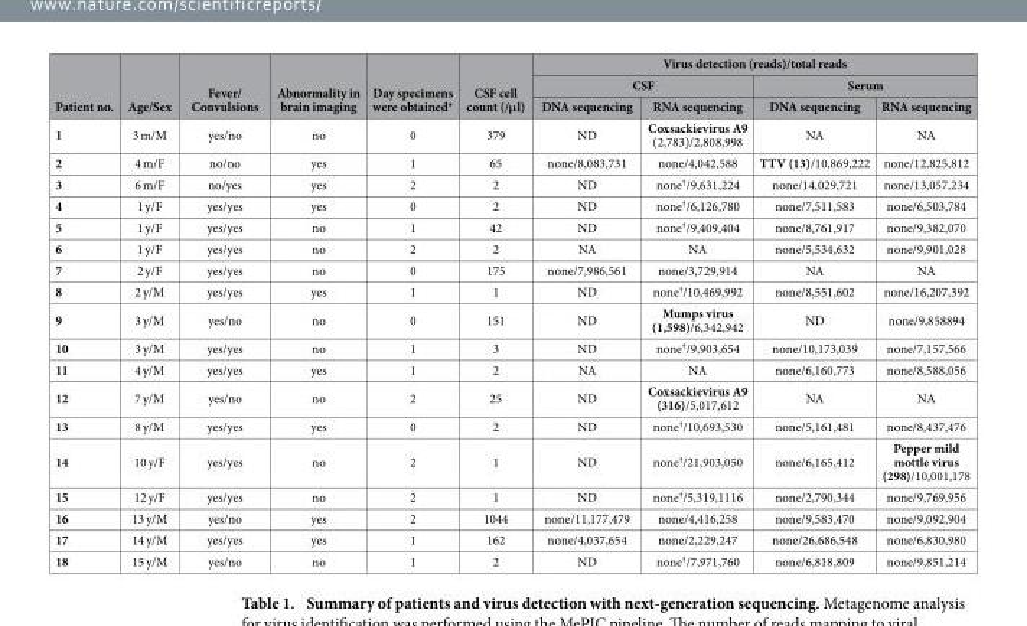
<table><thead><tr><td rowspan="3">Patient no.</td><td rowspan="3">Age/Sex</td><td rowspan="3">Fever/ Convulsions</td><td rowspan="3">Abnormality in brain imaging</td><td rowspan="3">Day specimens were obtained*</td><td rowspan="3">CSF cell count (/μl)</td><td colspan="4">Virus detection (reads)/total reads</td></tr><tr><td colspan="2">CSF</td><td colspan="2">Serum</td></tr><tr><td>DNA sequencing</td><td>RNA sequencing</td><td>DNA sequencing</td><td>RNA sequencing</td></tr></thead><tbody><tr><td>1</td><td>3 m/M</td><td>yes/no</td><td>no</td><td>0</td><td>379</td><td>ND</td><td>Coxsackievirus A9 (2,783)/2,808,998</td><td>NA</td><td>NA</td></tr><tr><td>2</td><td>4 m/F</td><td>no/no</td><td>yes</td><td>1</td><td>65</td><td>none/8,083,731</td><td>none/4,042,588</td><td>TTV (13)/10,869,222</td><td>none/12,825,812</td></tr><tr><td>3</td><td>6 m/F</td><td>no/yes</td><td>yes</td><td>2</td><td>2</td><td>ND</td><td>none<sup>†</sup>/9,631,224</td><td>none/14,029,721</td><td>none/13,057,234</td></tr><tr><td>4</td><td>1 y/F</td><td>yes/yes</td><td>yes</td><td>0</td><td>2</td><td>ND</td><td>none<sup>†</sup>/6,126,780</td><td>none/7,511,583</td><td>none/6,503,784</td></tr><tr><td>5</td><td>1 y/F</td><td>yes/yes</td><td>no</td><td>1</td><td>42</td><td>ND</td><td>none<sup>†</sup>/9,409,404</td><td>none/8,761,917</td><td>none/9,382,070</td></tr><tr><td>6</td><td>1 y/F</td><td>yes/yes</td><td>no</td><td>2</td><td>2</td><td>NA</td><td>NA</td><td>none/5,534,632</td><td>none/9,901,028</td></tr><tr><td>7</td><td>2 y/F</td><td>yes/yes</td><td>no</td><td>0</td><td>175</td><td>none/7,986,561</td><td>none/3,729,914</td><td>NA</td><td>NA</td></tr><tr><td>8</td><td>2 y/M</td><td>yes/yes</td><td>yes</td><td>1</td><td>1</td><td>ND</td><td>none<sup>†</sup>/10,469,992</td><td>none/8,551,602</td><td>none/16,207,392</td></tr><tr><td>9</td><td>3 y/M</td><td>yes/no</td><td>no</td><td>0</td><td>151</td><td>ND</td><td>Mumps virus (1,598)/6,342,942</td><td>ND</td><td>none/9,858894</td></tr><tr><td>10</td><td>3 y/M</td><td>yes/yes</td><td>no</td><td>1</td><td>3</td><td>ND</td><td>none<sup>†</sup>/9,903,654</td><td>none/10,173,039</td><td>none/7,157,566</td></tr><tr><td>11</td><td>4 y/M</td><td>yes/yes</td><td>yes</td><td>1</td><td>2</td><td>NA</td><td>NA</td><td>none/6,160,773</td><td>none/8,588,056</td></tr><tr><td>12</td><td>7 y/M</td><td>yes/no</td><td>no</td><td>2</td><td>25</td><td>ND</td><td>Coxsackievirus A9 (316)/5,017,612</td><td>NA</td><td>NA</td></tr><tr><td>13</td><td>8 y/M</td><td>yes/yes</td><td>yes</td><td>0</td><td>2</td><td>ND</td><td>none<sup>†</sup>/10,693,530</td><td>none/5,161,481</td><td>none/8,437,476</td></tr><tr><td>14</td><td>10 y/F</td><td>yes/yes</td><td>no</td><td>2</td><td>1</td><td>ND</td><td>none<sup>†</sup>/21,903,050</td><td>none/6,165,412</td><td>Pepper mild mottle virus (298)/10,001,178</td></tr><tr><td>15</td><td>12 y/F</td><td>yes/yes</td><td>no</td><td>2</td><td>1</td><td>ND</td><td>none<sup>†</sup>/5,319,1116</td><td>none/2,790,344</td><td>none/9,769,956</td></tr><tr><td>16</td><td>13 y/M</td><td>yes/no</td><td>yes</td><td>2</td><td>1044</td><td>none/11,177,479</td><td>none/4,416,258</td><td>none/9,583,470</td><td>none/9,092,904</td></tr><tr><td>17</td><td>14 y/M</td><td>yes/yes</td><td>yes</td><td>1</td><td>162</td><td>none/4,037,654</td><td>none/2,229,247</td><td>none/26,686,548</td><td>none/6,830,980</td></tr><tr><td>18</td><td>15 y/M</td><td>yes/no</td><td>no</td><td>1</td><td>2</td><td>ND</td><td>none<sup>†</sup>/7,971,760</td><td>none/6,818,809</td><td>none/9,851,214</td></tr></tbody></table>